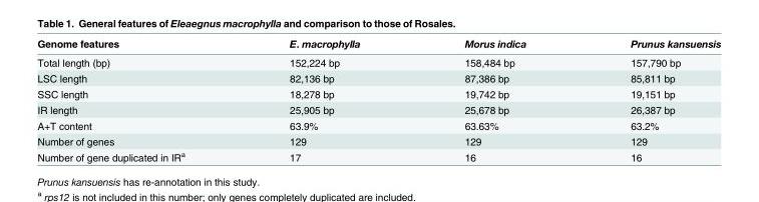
<table><thead><tr><td>Genome features</td><td>E. macrophylla</td><td>Morus indica</td><td>Prunus kansuensis</td></tr></thead><tbody><tr><td>Total length (bp)</td><td>152,224 bp</td><td>158,484 bp</td><td>157,790 bp</td></tr><tr><td>LSC length</td><td>82,136 bp</td><td>87,386 bp</td><td>85,811 bp</td></tr><tr><td>SSC length</td><td>18,278 bp</td><td>19,742 bp</td><td>19,151 bp</td></tr><tr><td>IR length</td><td>25,905 bp</td><td>25,678 bp</td><td>26,387 bp</td></tr><tr><td>A+T content</td><td>63.9%</td><td>63.63%</td><td>63.2%</td></tr><tr><td>Number of genes</td><td>129</td><td>129</td><td>129</td></tr><tr><td>Number of gene duplicated in IR<sup>a</sup></td><td>17</td><td>16</td><td>16</td></tr></tbody></table>